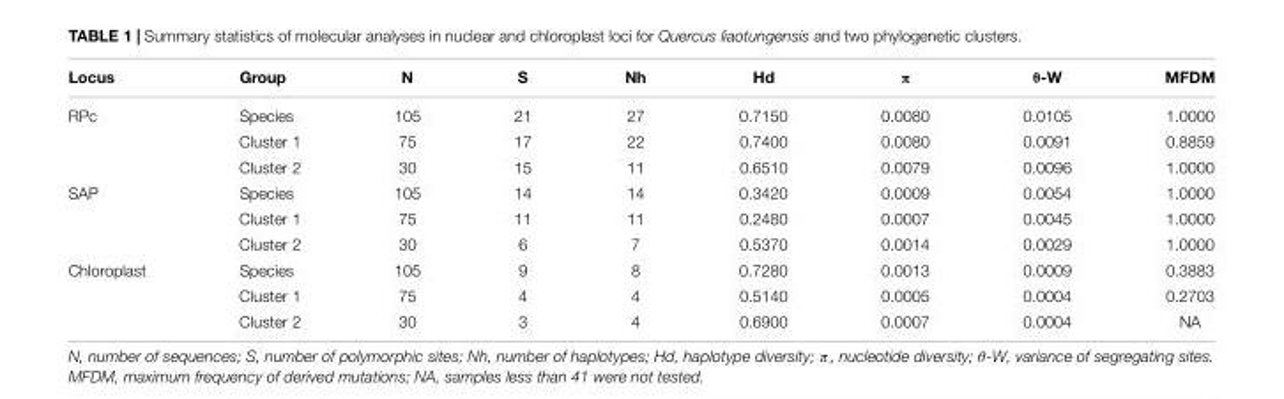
<table><thead><tr><td>Locus</td><td>Group</td><td>N</td><td>S</td><td>Nh</td><td>Hd</td><td>π</td><td>θ-W</td><td>MFDM</td></tr></thead><tbody><tr><td rowspan="3">RPc</td><td>Species</td><td>105</td><td>21</td><td>27</td><td>0.7150</td><td>0.0080</td><td>0.0105</td><td>1.0000</td></tr><tr><td>Cluster 1</td><td>75</td><td>17</td><td>22</td><td>0.7400</td><td>0.0080</td><td>0.0091</td><td>0.8859</td></tr><tr><td>Cluster 2</td><td>30</td><td>15</td><td>11</td><td>0.6510</td><td>0.0079</td><td>0.0096</td><td>1.0000</td></tr><tr><td rowspan="3">SAP</td><td>Species</td><td>105</td><td>14</td><td>14</td><td>0.3420</td><td>0.0009</td><td>0.0054</td><td>1.0000</td></tr><tr><td>Cluster 1</td><td>75</td><td>11</td><td>11</td><td>0.2480</td><td>0.0007</td><td>0.0045</td><td>1.0000</td></tr><tr><td>Cluster 2</td><td>30</td><td>6</td><td>7</td><td>0.5370</td><td>0.0014</td><td>0.0029</td><td>1.0000</td></tr><tr><td rowspan="3">Chloroplast</td><td>Species</td><td>105</td><td>9</td><td>8</td><td>0.7280</td><td>0.0013</td><td>0.0009</td><td>0.3883</td></tr><tr><td>Cluster 1</td><td>75</td><td>4</td><td>4</td><td>0.5140</td><td>0.0005</td><td>0.0004</td><td>0.2703</td></tr><tr><td>Cluster 2</td><td>30</td><td>3</td><td>4</td><td>0.6900</td><td>0.0007</td><td>0.0004</td><td>NA</td></tr></tbody></table>